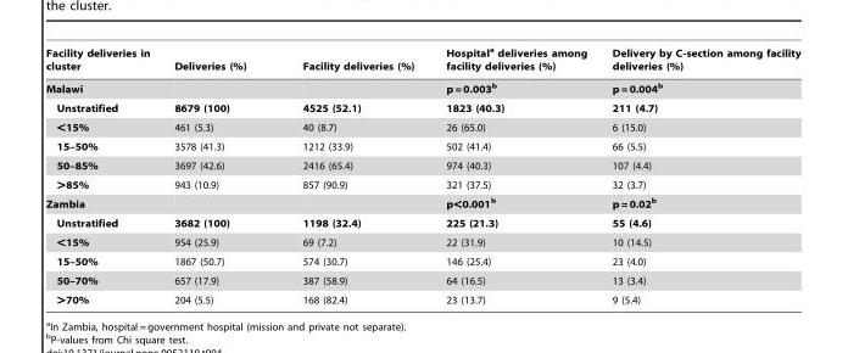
<table><thead><tr><td>Facility deliveries in cluster</td><td>Deliveries (%)</td><td>Facility deliveries (%)</td><td>Hospital<sup>a</sup> deliveries among facility deliveries (%)</td><td>Delivery by C-section among facility deliveries (%)</td></tr></thead><tbody><tr><td>Malawi</td><td></td><td></td><td>p = 0.003b</td><td>p = 0.004b</td></tr><tr><td>Unstratified</td><td>8679 (100)</td><td>4525 (52.1)</td><td>1823 (40.3)</td><td>211 (4.7)</td></tr><tr><td>&lt;15%</td><td>461 (5.3)</td><td>40 (8.7)</td><td>26 (65.0)</td><td>6 (15.0)</td></tr><tr><td>15–50%</td><td>3578 (41.3)</td><td>1212 (33.9)</td><td>502 (41.4)</td><td>66 (5.5)</td></tr><tr><td>50–85%</td><td>3697 (42.6)</td><td>2416 (65.4)</td><td>974 (40.3)</td><td>107 (4.4)</td></tr><tr><td>&gt;85%</td><td>943 (10.9)</td><td>857 (90.9)</td><td>321 (37.5)</td><td>32 (3.7)</td></tr><tr><td>Zambia</td><td></td><td></td><td>p&lt;0.001b</td><td>p = 0.02b</td></tr><tr><td>Unstratified</td><td>3682 (100)</td><td>1198 (32.4)</td><td>225 (21.3)</td><td>55 (4.6)</td></tr><tr><td>&lt;15%</td><td>954 (25.9)</td><td>69 (7.2)</td><td>22 (31.9)</td><td>10 (14.5)</td></tr><tr><td>15–50%</td><td>1867 (50.7)</td><td>574 (30.7)</td><td>146 (25.4)</td><td>23 (4.0)</td></tr><tr><td>50–70%</td><td>657 (17.9)</td><td>387 (58.9)</td><td>64 (16.5)</td><td>13 (3.4)</td></tr><tr><td>&gt;70%</td><td>204 (5.5)</td><td>168 (82.4)</td><td>23 (13.7)</td><td>9 (5.4)</td></tr></tbody></table>